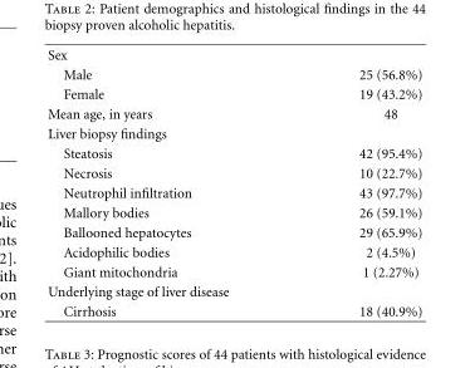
<table><tbody><tr><td colspan="2">Sex</td></tr><tr><td>Male</td><td>25 (56.8%)</td></tr><tr><td>Female</td><td>19 (43.2%)</td></tr><tr><td>Mean age, in years</td><td>48</td></tr><tr><td colspan="2">Liver biopsy findings</td></tr><tr><td>Steatosis</td><td>42 (95.4%)</td></tr><tr><td>Necrosis</td><td>10 (22.7%)</td></tr><tr><td>Neutrophil infiltration</td><td>43 (97.7%)</td></tr><tr><td>Mallory bodies</td><td>26 (59.1%)</td></tr><tr><td>Ballooned hepatocytes</td><td>29 (65.9%)</td></tr><tr><td>Acidophilic bodies</td><td>2 (4.5%)</td></tr><tr><td>Giant mitochondria</td><td>1 (2.27%)</td></tr><tr><td colspan="2">Underlying stage of liver disease</td></tr><tr><td>Cirrhosis</td><td>18 (40.9%)</td></tr></tbody></table>